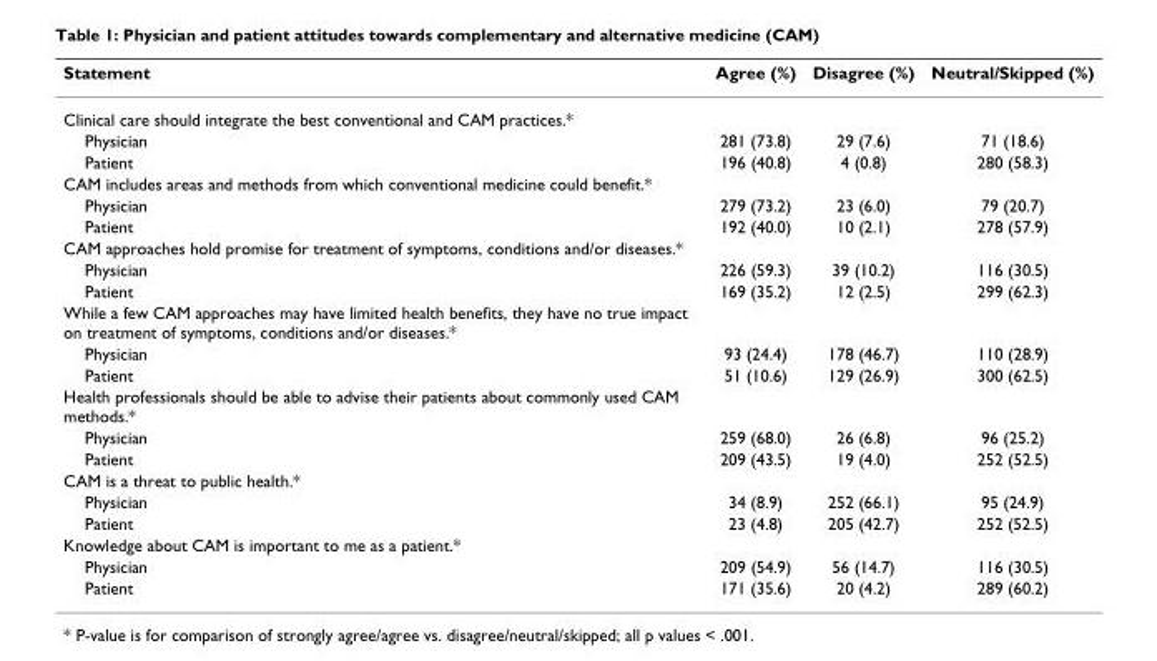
<table><thead><tr><td>Statement</td><td>Agree (%)</td><td>Disagree (%)</td><td>Neutral/Skipped (%)</td></tr></thead><tbody><tr><td colspan="4">Clinical care should integrate the best conventional and CAM practices.*</td></tr><tr><td>Physician</td><td>281 (73.8)</td><td>29 (7.6)</td><td>71 (18.6)</td></tr><tr><td>Patient</td><td>196 (40.8)</td><td>4 (0.8)</td><td>280 (58.3)</td></tr><tr><td colspan="4">CAM includes areas and methods from which conventional medicine could benefit.*</td></tr><tr><td>Physician</td><td>279 (73.2)</td><td>23 (6.0)</td><td>79 (20.7)</td></tr><tr><td>Patient</td><td>192 (40.0)</td><td>10 (2.1)</td><td>278 (57.9)</td></tr><tr><td colspan="4">CAM approaches hold promise for treatment of symptoms, conditions and/or diseases.*</td></tr><tr><td>Physician</td><td>226 (59.3)</td><td>39 (10.2)</td><td>116 (30.5)</td></tr><tr><td>Patient</td><td>169 (35.2)</td><td>12 (2.5)</td><td>299 (62.3)</td></tr><tr><td colspan="4">While a few CAM approaches may have limited health benefits, they have no true impact on treatment of symptoms, conditions and/or diseases.*</td></tr><tr><td>Physician</td><td>93 (24.4)</td><td>178 (46.7)</td><td>110 (28.9)</td></tr><tr><td>Patient</td><td>51 (10.6)</td><td>129 (26.9)</td><td>300 (62.5)</td></tr><tr><td colspan="4">Health professionals should be able to advise their patients about commonly used CAM methods.*</td></tr><tr><td>Physician</td><td>259 (68.0)</td><td>26 (6.8)</td><td>96 (25.2)</td></tr><tr><td>Patient</td><td>209 (43.5)</td><td>19 (4.0)</td><td>252 (52.5)</td></tr><tr><td colspan="4">CAM is a threat to public health.*</td></tr><tr><td>Physician</td><td>34 (8.9)</td><td>252 (66.1)</td><td>95 (24.9)</td></tr><tr><td>Patient</td><td>23 (4.8)</td><td>205 (42.7)</td><td>252 (52.5)</td></tr><tr><td colspan="4">Knowledge about CAM is important to me as a patient.*</td></tr><tr><td>Physician</td><td>209 (54.9)</td><td>56 (14.7)</td><td>116 (30.5)</td></tr><tr><td>Patient</td><td>171 (35.6)</td><td>20 (4.2)</td><td>289 (60.2)</td></tr></tbody></table>